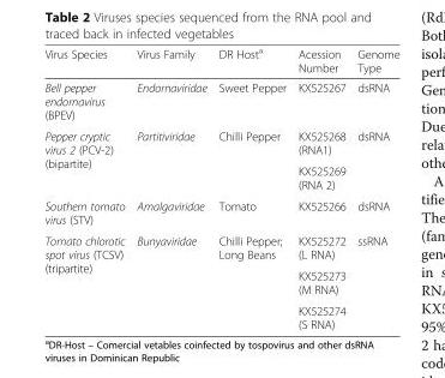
<table><thead><tr><td>Virus Species</td><td>Virus Family</td><td>DR Host<sup>a</sup></td><td>Acession Number</td><td>Genome Type</td></tr></thead><tbody><tr><td>Bell pepper endornavirus (BPEV)</td><td>Endornaviridae</td><td>Sweet Pepper</td><td>KX525267</td><td>dsRNA</td></tr><tr><td rowspan="2">Pepper cryptic virus 2 (PCV-2) (bipartite)</td><td rowspan="2">Partitiviridae</td><td rowspan="2">Chilli Pepper</td><td>KX525268 (RNA1)</td><td rowspan="2">dsRNA</td></tr><tr><td>KX525269 (RNA 2)</td></tr><tr><td>Southern tomato virus (STV)</td><td>Amalgaviridae</td><td>Tomato</td><td>KX525266</td><td>dsRNA</td></tr><tr><td rowspan="3">Tomato chlorotic spot virus (TCSV) (tripartite)</td><td>Bunyaviridae</td><td>Chilli Pepper; Long Beans</td><td>KX525272 (L RNA)</td><td rowspan="3">ssRNA</td></tr><tr><td></td><td></td><td>KX525273 (M RNA)</td></tr><tr><td></td><td></td><td>KX525274 (S RNA)</td></tr></tbody></table>